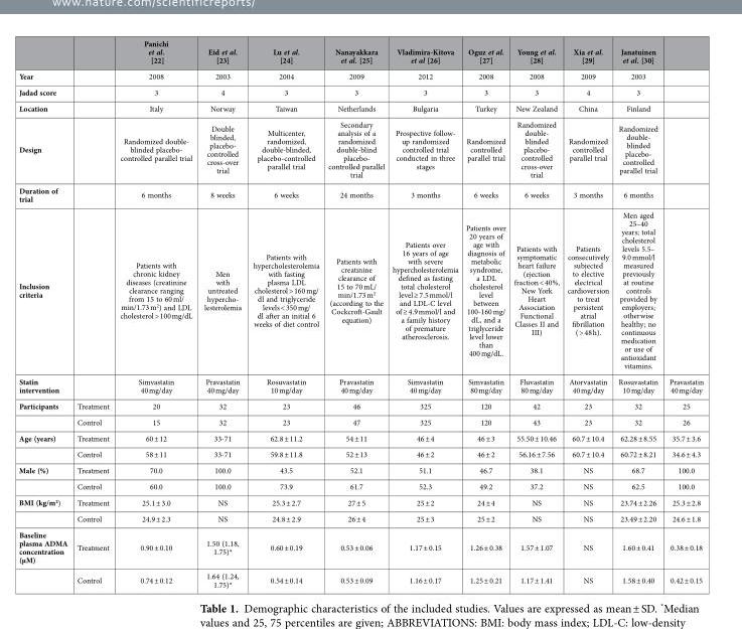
<table><thead><tr><td></td><td></td><td>Panichi et al. [22]</td><td>Eid et al. [23]</td><td>Lu et al. [24]</td><td>Nanayakkara et al. [25]</td><td>Vladimira-Kitova et al [26]</td><td>Oguz et al. [27]</td><td>Young et al. [28]</td><td>Xia et al. [29]</td><td>Janatuinen et al. [30]</td><td></td></tr></thead><tbody><tr><td>Year</td><td></td><td>2008</td><td>2003</td><td>2004</td><td>2009</td><td>2012</td><td>2008</td><td>2008</td><td>2009</td><td>2003</td><td></td></tr><tr><td>Jadad score</td><td></td><td>3</td><td>4</td><td>3</td><td>3</td><td>3</td><td>3</td><td>3</td><td>4</td><td>3</td><td></td></tr><tr><td>Location</td><td></td><td>Italy</td><td>Norway</td><td>Taiwan</td><td>Netherlands</td><td>Bulgaria</td><td>Turkey</td><td>New Zealand</td><td>China</td><td>Finland</td><td></td></tr><tr><td>Design</td><td></td><td>Randomized double- blinded placebo- controlled parallel trial</td><td>Double blinded, placebo- controlled cross-over trial</td><td>Multicenter, randomized, double-blinded, placebo-controlled parallel trial</td><td>Secondary analysis of a randomized double-blind placebo- controlled parallel trial</td><td>Prospective follow- up randomized controlled trial conducted in three stages</td><td>Randomized controlled parallel trial</td><td>Randomized double- blinded placebo- controlled cross-over trial</td><td>Randomized controlled parallel trial</td><td>Randomized double- blinded placebo- controlled parallel trial</td><td></td></tr><tr><td>Duration of trial</td><td></td><td>6 months</td><td>8 weeks</td><td>6 weeks</td><td>24 months</td><td>3 months</td><td>6 weeks</td><td>6 weeks</td><td>3 months</td><td>6 months</td><td></td></tr><tr><td>Inclusion criteria</td><td></td><td>Patients with chronic kidney diseases (creatinine clearance ranging from 15 to 60 ml/ min/1.73 m<sup>2</sup>) and LDL cholesterol &gt; 100 mg/dL</td><td>Men with untreated hypercho- lesterolemia</td><td>Patients with hypercholesterolemia with fasting plasma LDL cholesterol &gt; 160 mg/ dl and triglyceride levels &lt; 350 mg/ dl after an initial 6 weeks of diet control</td><td>Patients with creatinine clearance of 15 to 70 mL/ min/1.73 m<sup>2</sup> (according to the Cockcroft-Gault equation)</td><td>Patients over 16 years of age with severe hypercholesterolemia defined as fasting total cholesterol level ≥ 7.5 mmol/l and LDL-C level of ≥ 4.9 mmol/l and a family history of premature atherosclerosis.</td><td>Patients over 20 years of age with diagnosis of metabolic syndrome, a LDL cholesterol level between 100-160 mg/ dL, and a triglyceride level lower than 400 mg/dL.</td><td>Patients with symptomatic heart failure (ejection fraction &lt; 40%, New York Heart Association Functional Classes II and III)</td><td>Patients consecutively subjected to elective electrical cardioversion to treat persistent atrial fibrillation ( &gt; 48 h).</td><td>Men aged 25–40 years; total cholesterol levels 5.5– 9.0 mmol/l measured previously at routine controls provided by employers; otherwise healthy; no continuous medication or use of antioxidant vitamins.</td><td></td></tr><tr><td>Statin intervention</td><td></td><td>Simvastatin 40 mg/day</td><td>Pravastatin 40 mg/day</td><td>Rosuvastatin 10 mg/day</td><td>Pravastatin 40 mg/day</td><td>Simvastatin 40 mg/day</td><td>Simvastatin 80 mg/day</td><td>Fluvastatin 80 mg/day</td><td>Atorvastatin 40 mg/day</td><td>Rosuvastatin 10 mg/day</td><td>Pravastatin 40 mg/day</td></tr><tr><td rowspan="2">Participants</td><td>Treatment</td><td>20</td><td>32</td><td>23</td><td>46</td><td>325</td><td>120</td><td>42</td><td>23</td><td>32</td><td>25</td></tr><tr><td>Control</td><td>15</td><td>32</td><td>23</td><td>47</td><td>325</td><td>120</td><td>43</td><td>23</td><td>32</td><td>26</td></tr><tr><td rowspan="2">Age (years)</td><td>Treatment</td><td>60 ± 12</td><td>33-71</td><td>62.8 ± 11.2</td><td>54 ± 11</td><td>46 ± 4</td><td>46 ± 3</td><td>55.50 ± 10.46</td><td>60.7 ± 10.4</td><td>62.28 ± 8.55</td><td>35.7 ± 3.6</td></tr><tr><td>Control</td><td>58 ± 11</td><td>33-71</td><td>59.8 ± 11.8</td><td>52 ± 13</td><td>46 ± 2</td><td>46 ± 2</td><td>56.16 ± 7.56</td><td>60.7 ± 10.4</td><td>60.72 ± 8.21</td><td>34.6 ± 4.3</td></tr><tr><td rowspan="2">Male (%)</td><td>Treatment</td><td>70.0</td><td>100.0</td><td>43.5</td><td>52.1</td><td>51.1</td><td>46.7</td><td>38.1</td><td>NS</td><td>68.7</td><td>100.0</td></tr><tr><td>Control</td><td>60.0</td><td>100.0</td><td>73.9</td><td>61.7</td><td>52.3</td><td>49.2</td><td>37.2</td><td>NS</td><td>62.5</td><td>100.0</td></tr><tr><td rowspan="2">BMI (kg/m<sup>2</sup>)</td><td>Treatment</td><td>25.1 ± 3.0</td><td>NS</td><td>25.3 ± 2.7</td><td>27 ± 5</td><td>25 ± 2</td><td>24 ± 4</td><td>NS</td><td>NS</td><td>23.74 ± 2.26</td><td>25.3 ± 2.8</td></tr><tr><td>Control</td><td>24.9 ± 2.3</td><td>NS</td><td>24.8 ± 2.9</td><td>26 ± 4</td><td>25 ± 3</td><td>25 ± 2</td><td>NS</td><td>NS</td><td>23.49 ± 2.20</td><td>24.6 ± 1.8</td></tr><tr><td rowspan="2">Baseline plasma ADMA concentration (μM)</td><td>Treatment</td><td>0.90 ± 0.10</td><td>1.50 (1.18, 1.75)*</td><td>0.60 ± 0.19</td><td>0.53 ± 0.06</td><td>1.17 ± 0.15</td><td>1.26 ± 0.38</td><td>1.57 ± 1.07</td><td>NS</td><td>1.60 ± 0.41</td><td>0.38 ± 0.18</td></tr><tr><td>Control</td><td>0.74 ± 0.12</td><td>1.64 (1.24, 1.75)*</td><td>0.54 ± 0.14</td><td>0.53 ± 0.09</td><td>1.16 ± 0.17</td><td>1.25 ± 0.21</td><td>1.17 ± 1.41</td><td>NS</td><td>1.58 ± 0.40</td><td>0.42 ± 0.15</td></tr></tbody></table>